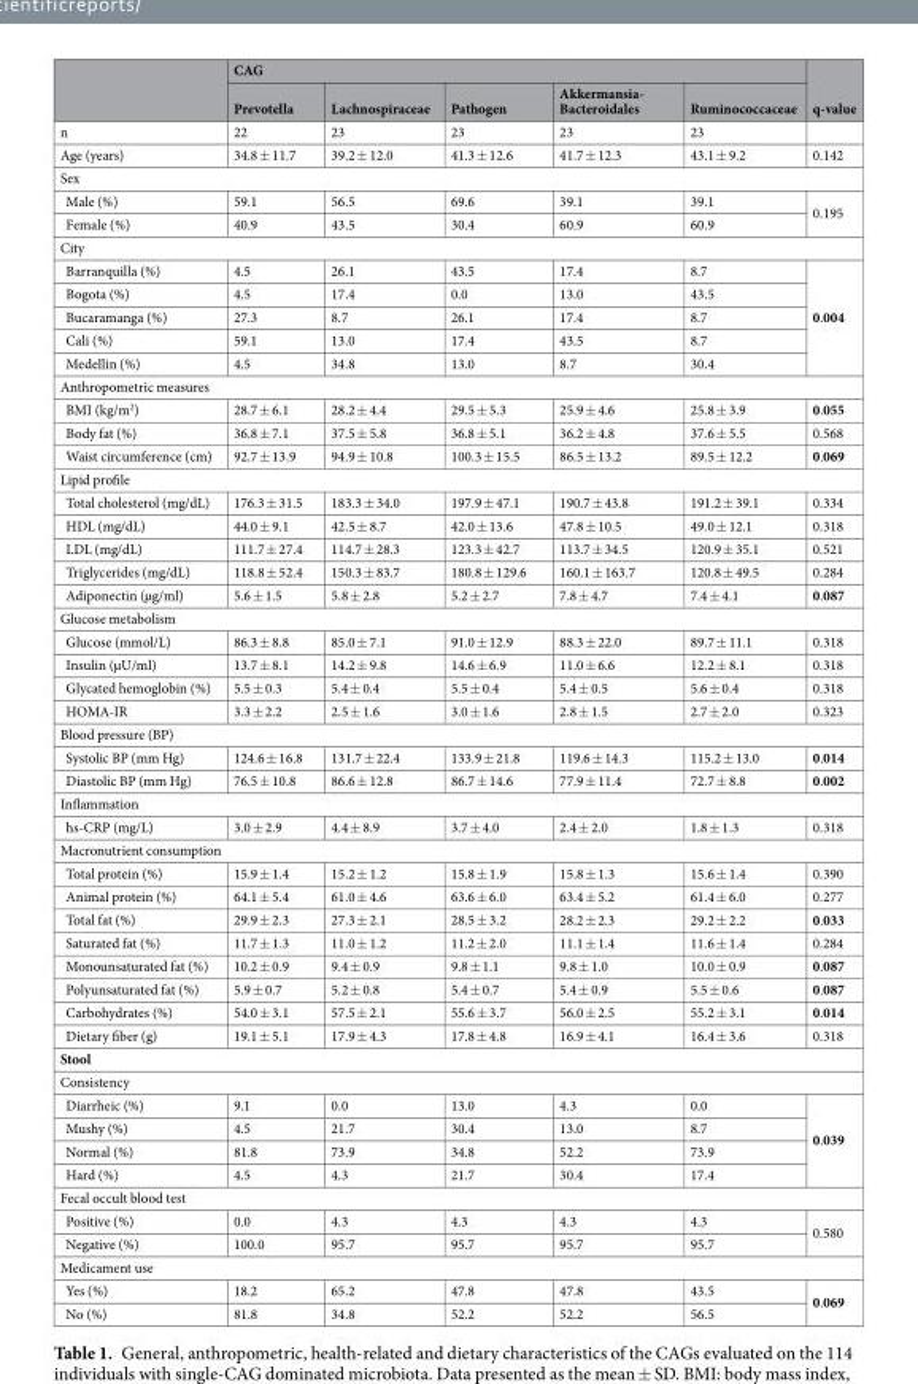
<table><thead><tr><td rowspan="2"></td><td colspan="5">CAG</td><td rowspan="2">q-value</td></tr><tr><td>Prevotella</td><td>Lachnospiraceae</td><td>Pathogen</td><td>Akkermansia- Bacteroidales</td><td>Ruminococcaceae</td></tr></thead><tbody><tr><td>n</td><td>22</td><td>23</td><td>23</td><td>23</td><td>23</td><td></td></tr><tr><td>Age (years)</td><td>34.8 ± 11.7</td><td>39.2 ± 12.0</td><td>41.3 ± 12.6</td><td>41.7 ± 12.3</td><td>43.1 ± 9.2</td><td>0.142</td></tr><tr><td colspan="7">Sex</td></tr><tr><td>Male (%)</td><td>59.1</td><td>56.5</td><td>69.6</td><td>39.1</td><td>39.1</td><td rowspan="2">0.195</td></tr><tr><td>Female (%)</td><td>40.9</td><td>43.5</td><td>30.4</td><td>60.9</td><td>60.9</td></tr><tr><td colspan="7">City</td></tr><tr><td>Barranquilla (%)</td><td>4.5</td><td>26.1</td><td>43.5</td><td>17.4</td><td>8.7</td><td rowspan="5">0.004</td></tr><tr><td>Bogota (%)</td><td>4.5</td><td>17.4</td><td>0.0</td><td>13.0</td><td>43.5</td></tr><tr><td>Bucaramanga (%)</td><td>27.3</td><td>8.7</td><td>26.1</td><td>17.4</td><td>8.7</td></tr><tr><td>Cali (%)</td><td>59.1</td><td>13.0</td><td>17.4</td><td>43.5</td><td>8.7</td></tr><tr><td>Medellin (%)</td><td>4.5</td><td>34.8</td><td>13.0</td><td>8.7</td><td>30.4</td></tr><tr><td colspan="7">Anthropometric measures</td></tr><tr><td>BMI (kg/m<sup>2</sup>)</td><td>28.7 ± 6.1</td><td>28.2 ± 4.4</td><td>29.5 ± 5.3</td><td>25.9 ± 4.6</td><td>25.8 ± 3.9</td><td>0.055</td></tr><tr><td>Body fat (%)</td><td>36.8 ± 7.1</td><td>37.5 ± 5.8</td><td>36.8 ± 5.1</td><td>36.2 ± 4.8</td><td>37.6 ± 5.5</td><td>0.568</td></tr><tr><td>Waist circumference (cm)</td><td>92.7 ± 13.9</td><td>94.9 ± 10.8</td><td>100.3 ± 15.5</td><td>86.5 ± 13.2</td><td>89.5 ± 12.2</td><td>0.069</td></tr><tr><td colspan="7">Lipid profile</td></tr><tr><td>Total cholesterol (mg/dL)</td><td>176.3 ± 31.5</td><td>183.3 ± 34.0</td><td>197.9 ± 47.1</td><td>190.7 ± 43.8</td><td>191.2 ± 39.1</td><td>0.334</td></tr><tr><td>HDL (mg/dL)</td><td>44.0 ± 9.1</td><td>42.5 ± 8.7</td><td>42.0 ± 13.6</td><td>47.8 ± 10.5</td><td>49.0 ± 12.1</td><td>0.318</td></tr><tr><td>LDL (mg/dL)</td><td>111.7 ± 27.4</td><td>114.7 ± 28.3</td><td>123.3 ± 42.7</td><td>113.7 ± 34.5</td><td>120.9 ± 35.1</td><td>0.521</td></tr><tr><td>Triglycerides (mg/dL)</td><td>118.8 ± 52.4</td><td>150.3 ± 83.7</td><td>180.8 ± 129.6</td><td>160.1 ± 163.7</td><td>120.8 ± 49.5</td><td>0.284</td></tr><tr><td>Adiponectin (µg/ml)</td><td>5.6 ± 1.5</td><td>5.8 ± 2.8</td><td>5.2 ± 2.7</td><td>7.8 ± 4.7</td><td>7.4 ± 4.1</td><td>0.087</td></tr><tr><td colspan="7">Glucose metabolism</td></tr><tr><td>Glucose (mmol/L)</td><td>86.3 ± 8.8</td><td>85.0 ± 7.1</td><td>91.0 ± 12.9</td><td>88.3 ± 22.0</td><td>89.7 ± 11.1</td><td>0.318</td></tr><tr><td>Insulin (µU/ml)</td><td>13.7 ± 8.1</td><td>14.2 ± 9.8</td><td>14.6 ± 6.9</td><td>11.0 ± 6.6</td><td>12.2 ± 8.1</td><td>0.318</td></tr><tr><td>Glycated hemoglobin (%)</td><td>5.5 ± 0.3</td><td>5.4 ± 0.4</td><td>5.5 ± 0.4</td><td>5.4 ± 0.5</td><td>5.6 ± 0.4</td><td>0.318</td></tr><tr><td>HOMA-IR</td><td>3.3 ± 2.2</td><td>2.5 ± 1.6</td><td>3.0 ± 1.6</td><td>2.8 ± 1.5</td><td>2.7 ± 2.0</td><td>0.323</td></tr><tr><td colspan="7">Blood pressure (BP)</td></tr><tr><td>Systolic BP (mm Hg)</td><td>124.6 ± 16.8</td><td>131.7 ± 22.4</td><td>133.9 ± 21.8</td><td>119.6 ± 14.3</td><td>115.2 ± 13.0</td><td>0.014</td></tr><tr><td>Diastolic BP (mm Hg)</td><td>76.5 ± 10.8</td><td>86.6 ± 12.8</td><td>86.7 ± 14.6</td><td>77.9 ± 11.4</td><td>72.7 ± 8.8</td><td>0.002</td></tr><tr><td colspan="7">Inflammation</td></tr><tr><td>hs-CRP (mg/L)</td><td>3.0 ± 2.9</td><td>4.4 ± 8.9</td><td>3.7 ± 4.0</td><td>2.4 ± 2.0</td><td>1.8 ± 1.3</td><td>0.318</td></tr><tr><td colspan="7">Macronutrient consumption</td></tr><tr><td>Total protein (%)</td><td>15.9 ± 1.4</td><td>15.2 ± 1.2</td><td>15.8 ± 1.9</td><td>15.8 ± 1.3</td><td>15.6 ± 1.4</td><td>0.390</td></tr><tr><td>Animal protein (%)</td><td>64.1 ± 5.4</td><td>61.0 ± 4.6</td><td>63.6 ± 6.0</td><td>63.4 ± 5.2</td><td>61.4 ± 6.0</td><td>0.277</td></tr><tr><td>Total fat (%)</td><td>29.9 ± 2.3</td><td>27.3 ± 2.1</td><td>28.5 ± 3.2</td><td>28.2 ± 2.3</td><td>29.2 ± 2.2</td><td>0.033</td></tr><tr><td>Saturated fat (%)</td><td>11.7 ± 1.3</td><td>11.0 ± 1.2</td><td>11.2 ± 2.0</td><td>11.1 ± 1.4</td><td>11.6 ± 1.4</td><td>0.284</td></tr><tr><td>Monounsaturated fat (%)</td><td>10.2 ± 0.9</td><td>9.4 ± 0.9</td><td>9.8 ± 1.1</td><td>9.8 ± 1.0</td><td>10.0 ± 0.9</td><td>0.087</td></tr><tr><td>Polyunsaturated fat (%)</td><td>5.9 ± 0.7</td><td>5.2 ± 0.8</td><td>5.4 ± 0.7</td><td>5.4 ± 0.9</td><td>5.5 ± 0.6</td><td>0.087</td></tr><tr><td>Carbohydrates (%)</td><td>54.0 ± 3.1</td><td>57.5 ± 2.1</td><td>55.6 ± 3.7</td><td>56.0 ± 2.5</td><td>55.2 ± 3.1</td><td>0.014</td></tr><tr><td>Dietary fiber (g)</td><td>19.1 ± 5.1</td><td>17.9 ± 4.3</td><td>17.8 ± 4.8</td><td>16.9 ± 4.1</td><td>16.4 ± 3.6</td><td>0.318</td></tr><tr><td colspan="7">Stool</td></tr><tr><td colspan="7">Consistency</td></tr><tr><td>Diarrheic (%)</td><td>9.1</td><td>0.0</td><td>13.0</td><td>4.3</td><td>0.0</td><td rowspan="4">0.039</td></tr><tr><td>Mushy (%)</td><td>4.5</td><td>21.7</td><td>30.4</td><td>13.0</td><td>8.7</td></tr><tr><td>Normal (%)</td><td>81.8</td><td>73.9</td><td>34.8</td><td>52.2</td><td>73.9</td></tr><tr><td>Hard (%)</td><td>4.5</td><td>4.3</td><td>21.7</td><td>30.4</td><td>17.4</td></tr><tr><td colspan="7">Fecal occult blood test</td></tr><tr><td>Positive (%)</td><td>0.0</td><td>4.3</td><td>4.3</td><td>4.3</td><td>4.3</td><td rowspan="2">0.580</td></tr><tr><td>Negative (%)</td><td>100.0</td><td>95.7</td><td>95.7</td><td>95.7</td><td>95.7</td></tr><tr><td colspan="7">Medicament use</td></tr><tr><td>Yes (%)</td><td>18.2</td><td>65.2</td><td>47.8</td><td>47.8</td><td>43.5</td><td rowspan="2">0.069</td></tr><tr><td>No (%)</td><td>81.8</td><td>34.8</td><td>52.2</td><td>52.2</td><td>56.5</td></tr></tbody></table>